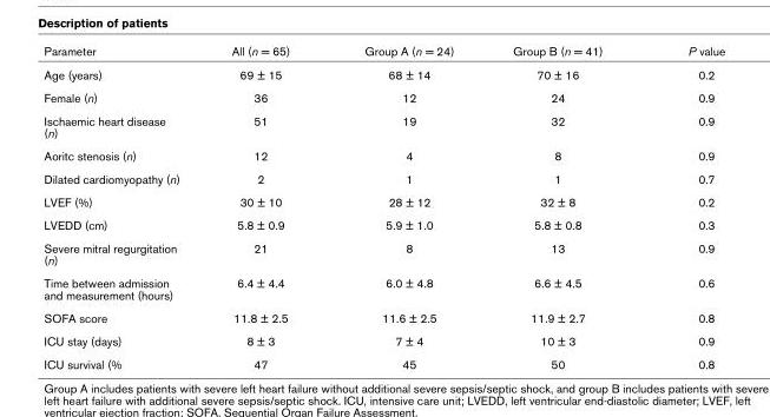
<table><thead><tr><td>Parameter</td><td>All (n = 65)</td><td>Group A (n = 24)</td><td>Group B (n = 41)</td><td>P value</td></tr></thead><tbody><tr><td>Age (years)</td><td>69 ± 15</td><td>68 ± 14</td><td>70 ± 16</td><td>0.2</td></tr><tr><td>Female (n)</td><td>36</td><td>12</td><td>24</td><td>0.9</td></tr><tr><td>Ischaemic heart disease (n)</td><td>51</td><td>19</td><td>32</td><td>0.9</td></tr><tr><td>Aoritc stenosis (n)</td><td>12</td><td>4</td><td>8</td><td>0.9</td></tr><tr><td>Dilated cardiomyopathy (n)</td><td>2</td><td>1</td><td>1</td><td>0.7</td></tr><tr><td>LVEF (%)</td><td>30 ± 10</td><td>28 ± 12</td><td>32 ± 8</td><td>0.2</td></tr><tr><td>LVEDD (cm)</td><td>5.8 ± 0.9</td><td>5.9 ± 1.0</td><td>5.8 ± 0.8</td><td>0.3</td></tr><tr><td>Severe mitral regurgitation (n)</td><td>21</td><td>8</td><td>13</td><td>0.9</td></tr><tr><td>Time between admission and measurement (hours)</td><td>6.4 ± 4.4</td><td>6.0 ± 4.8</td><td>6.6 ± 4.5</td><td>0.6</td></tr><tr><td>SOFA score</td><td>11.8 ± 2.5</td><td>11.6 ± 2.5</td><td>11.9 ± 2.7</td><td>0.8</td></tr><tr><td>ICU stay (days)</td><td>8 ± 3</td><td>7 ± 4</td><td>10 ± 3</td><td>0.9</td></tr><tr><td>ICU survival (%</td><td>47</td><td>45</td><td>50</td><td>0.8</td></tr></tbody></table>